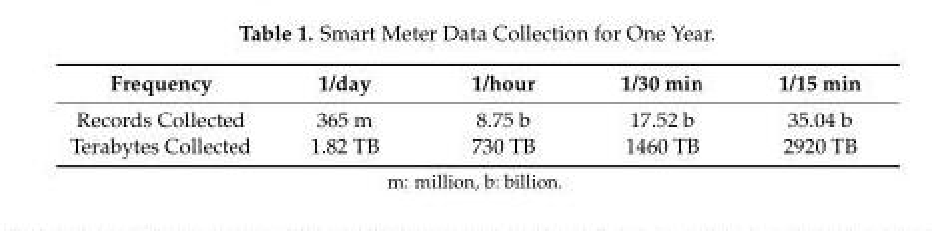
<table><thead><tr><td>Frequency</td><td>1/day</td><td>1/hour</td><td>1/30 min</td><td>1/15 min</td></tr></thead><tbody><tr><td>Records Collected</td><td>365 m</td><td>8.75 b</td><td>17.52 b</td><td>35.04 b</td></tr><tr><td>Terabytes Collected</td><td>1.82 TB</td><td>730 TB</td><td>1460 TB</td><td>2920 TB</td></tr></tbody></table>